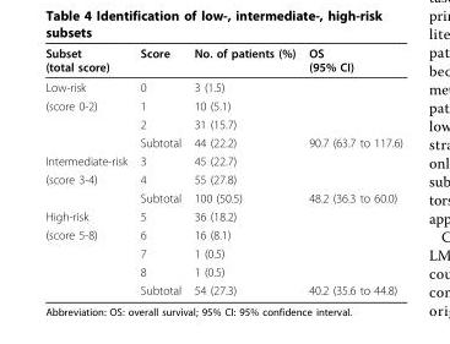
<table><thead><tr><td>Subset (total score)</td><td>Score</td><td>No. of patients (%)</td><td>OS (95% CI)</td></tr></thead><tbody><tr><td>Low-risk</td><td>0</td><td>3 (1.5)</td><td></td></tr><tr><td rowspan="3">(score 0-2)</td><td>1</td><td>10 (5.1)</td><td></td></tr><tr><td>2</td><td>31 (15.7)</td><td></td></tr><tr><td>Subtotal</td><td>44 (22.2)</td><td>90.7 (63.7 to 117.6)</td></tr><tr><td>Intermediate-risk</td><td>3</td><td>45 (22.7)</td><td></td></tr><tr><td rowspan="2">(score 3-4)</td><td>4</td><td>55 (27.8)</td><td></td></tr><tr><td>Subtotal</td><td>100 (50.5)</td><td>48.2 (36.3 to 60.0)</td></tr><tr><td>High-risk</td><td>5</td><td>36 (18.2)</td><td></td></tr><tr><td rowspan="4">(score 5-8)</td><td>6</td><td>16 (8.1)</td><td></td></tr><tr><td>7</td><td>1 (0.5)</td><td></td></tr><tr><td>8</td><td>1 (0.5)</td><td></td></tr><tr><td>Subtotal</td><td>54 (27.3)</td><td>40.2 (35.6 to 44.8)</td></tr></tbody></table>